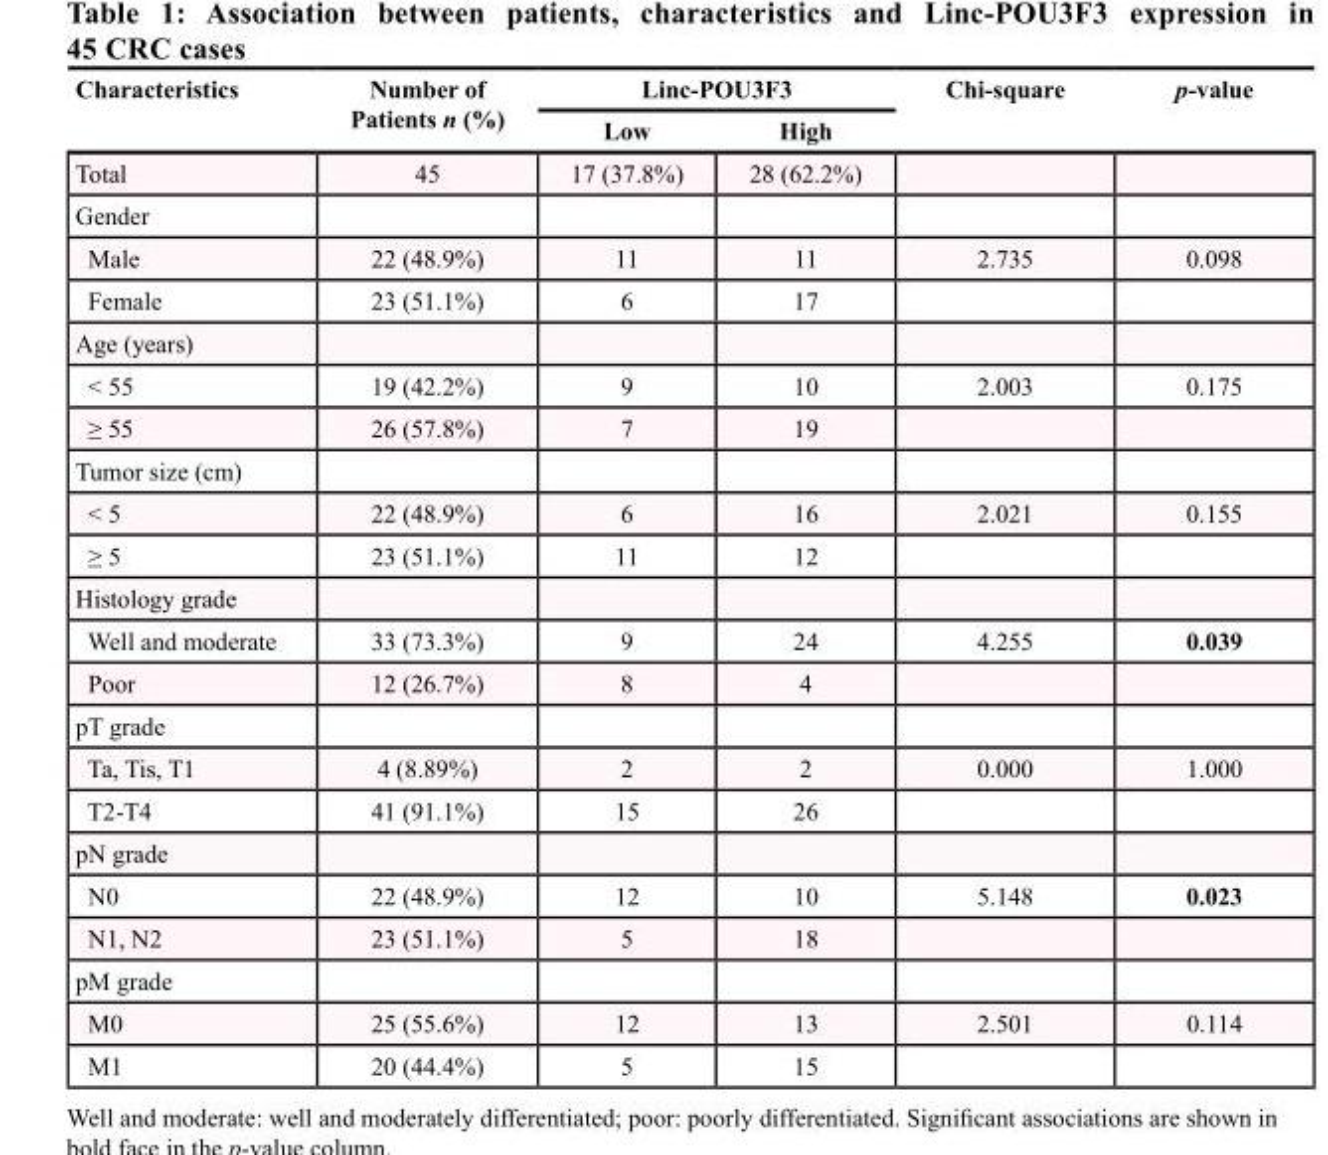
<table><thead><tr><td rowspan="2">Characteristics</td><td rowspan="2">Number of Patients n (%)</td><td colspan="2">Linc-POU3F3</td><td rowspan="2">Chi-square</td><td rowspan="2">p-value</td></tr><tr><td>Low</td><td>High</td></tr></thead><tbody><tr><td>Total</td><td>45</td><td>17 (37.8%)</td><td>28 (62.2%)</td><td></td><td></td></tr><tr><td colspan="6">Gender</td></tr><tr><td>Male</td><td>22 (48.9%)</td><td>11</td><td>11</td><td>2.735</td><td>0.098</td></tr><tr><td>Female</td><td>23 (51.1%)</td><td>6</td><td>17</td><td></td><td></td></tr><tr><td colspan="6">Age (years)</td></tr><tr><td>&lt; 55</td><td>19 (42.2%)</td><td>9</td><td>10</td><td>2.003</td><td>0.175</td></tr><tr><td>≥ 55</td><td>26 (57.8%)</td><td>7</td><td>19</td><td></td><td></td></tr><tr><td colspan="6">Tumor size (cm)</td></tr><tr><td>&lt; 5</td><td>22 (48.9%)</td><td>6</td><td>16</td><td>2.021</td><td>0.155</td></tr><tr><td>≥ 5</td><td>23 (51.1%)</td><td>11</td><td>12</td><td></td><td></td></tr><tr><td colspan="6">Histology grade</td></tr><tr><td>Well and moderate</td><td>33 (73.3%)</td><td>9</td><td>24</td><td>4.255</td><td>0.039</td></tr><tr><td>Poor</td><td>12 (26.7%)</td><td>8</td><td>4</td><td></td><td></td></tr><tr><td colspan="6">pT grade</td></tr><tr><td>Ta, Tis, T1</td><td>4 (8.89%)</td><td>2</td><td>2</td><td>0.000</td><td>1.000</td></tr><tr><td>T2-T4</td><td>41 (91.1%)</td><td>15</td><td>26</td><td></td><td></td></tr><tr><td colspan="6">pN grade</td></tr><tr><td>N0</td><td>22 (48.9%)</td><td>12</td><td>10</td><td>5.148</td><td>0.023</td></tr><tr><td>N1, N2</td><td>23 (51.1%)</td><td>5</td><td>18</td><td></td><td></td></tr><tr><td colspan="6">pM grade</td></tr><tr><td>M0</td><td>25 (55.6%)</td><td>12</td><td>13</td><td>2.501</td><td>0.114</td></tr><tr><td>M1</td><td>20 (44.4%)</td><td>5</td><td>15</td><td></td><td></td></tr></tbody></table>